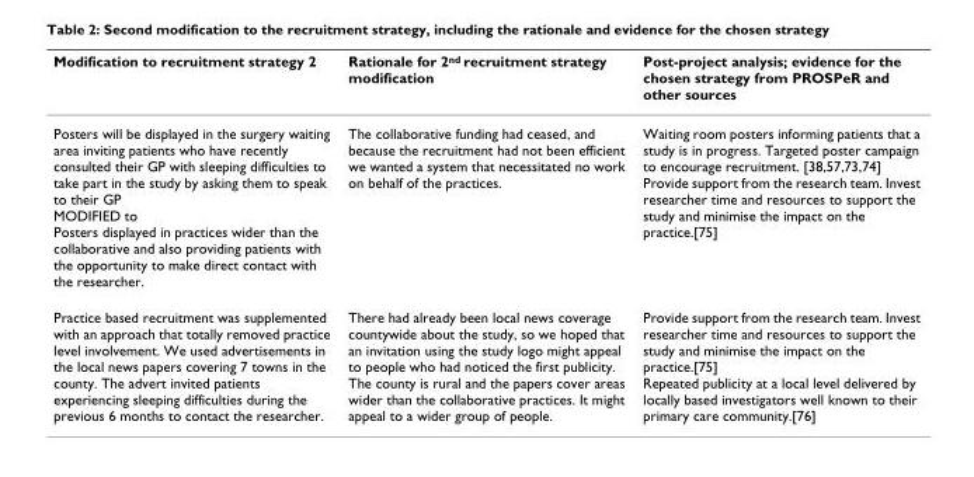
<table><thead><tr><td>Modification to recruitment strategy 2</td><td>Rationale for 2<sup>nd</sup> recruitment strategy modification</td><td>Post-project analysis; evidence for the chosen strategy from PROSPeR and other sources</td></tr></thead><tbody><tr><td>Posters will be displayed in the surgery waiting area inviting patients who have recently consulted their GP with sleeping difficulties to take part in the study by asking them to speak to their GP MODIFIED to Posters displayed in practices wider than the collaborative and also providing patients with the opportunity to make direct contact with the researcher.</td><td>The collaborative funding had ceased, and because the recruitment had not been efficient we wanted a system that necessitated no work on behalf of the practices.</td><td>Waiting room posters informing patients that a study is in progress. Targeted poster campaign to encourage recruitment. [38,57,73,74] Provide support from the research team. Invest researcher time and resources to support the study and minimise the impact on the practice.[75]</td></tr><tr><td>Practice based recruitment was supplemented with an approach that totally removed practice level involvement. We used advertisements in the local news papers covering 7 towns in the county. The advert invited patients experiencing sleeping difficulties during the previous 6 months to contact the researcher.</td><td>There had already been local news coverage countywide about the study, so we hoped that an invitation using the study logo might appeal to people who had noticed the first publicity. The county is rural and the papers cover areas wider than the collaborative practices. It might appeal to a wider group of people.</td><td>Provide support from the research team. Invest researcher time and resources to support the study and minimise the impact on the practice.[75] Repeated publicity at a local level delivered by locally based investigators well known to their primary care community.[76]</td></tr></tbody></table>